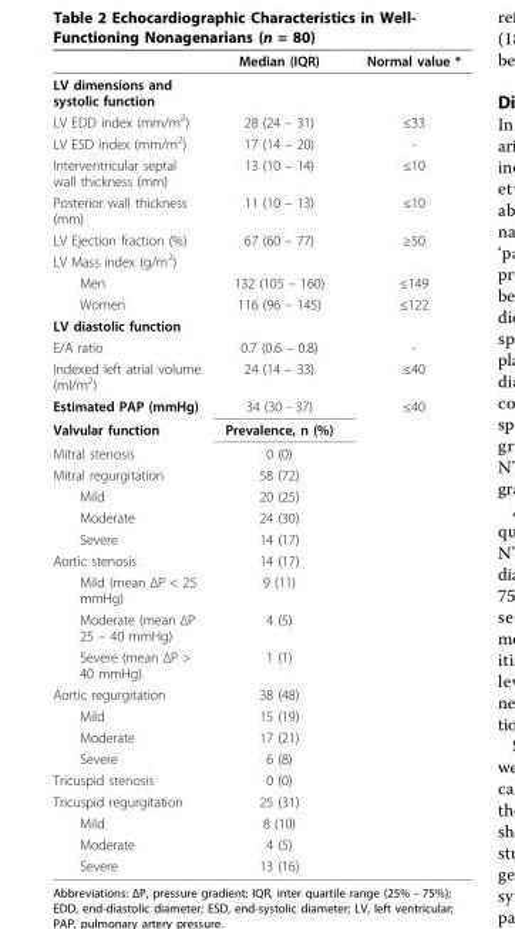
<table><thead><tr><td></td><td>Median (IQR)</td><td>Normal value *</td></tr></thead><tbody><tr><td colspan="3">LV dimensions and systolic function</td></tr><tr><td>LV EDD index (mm/m<sup>2</sup>)</td><td>28 (24 – 31)</td><td>≤33</td></tr><tr><td>LV ESD index (mm/m<sup>2</sup>)</td><td>17 (14 – 20)</td><td>-</td></tr><tr><td>Interventricular septal wall thickness (mm)</td><td>13 (10 – 14)</td><td>≤10</td></tr><tr><td>Posterior wall thickness (mm)</td><td>11 (10 – 13)</td><td>≤10</td></tr><tr><td>LV Ejection fraction (%)</td><td>67 (60 – 77)</td><td>≥50</td></tr><tr><td colspan="3">LV Mass index (g/m<sup>2</sup>)</td></tr><tr><td>Men</td><td>132 (105 – 160)</td><td>≤149</td></tr><tr><td>Women</td><td>116 (96 – 145)</td><td>≤122</td></tr><tr><td colspan="3">LV diastolic function</td></tr><tr><td>E/A ratio</td><td>0.7 (0.6 – 0.8)</td><td>-</td></tr><tr><td>Indexed left atrial volume (ml/m<sup>2</sup>)</td><td>24 (14 – 33)</td><td>≤40</td></tr><tr><td>Estimated PAP (mmHg)</td><td>34 (30 - 37)</td><td>≤40</td></tr><tr><td>Valvular function</td><td>Prevalence, n (%)</td><td></td></tr><tr><td>Mitral stenosis</td><td>0 (0)</td><td></td></tr><tr><td>Mitral regurgitation</td><td>58 (72)</td><td></td></tr><tr><td>Mild</td><td>20 (25)</td><td></td></tr><tr><td>Moderate</td><td>24 (30)</td><td></td></tr><tr><td>Severe</td><td>14 (17)</td><td></td></tr><tr><td>Aortic stenosis</td><td>14 (17)</td><td></td></tr><tr><td>Mild (mean ΔP &lt; 25 mmHg)</td><td>9 (11)</td><td></td></tr><tr><td>Moderate (mean ΔP 25 – 40 mmHg)</td><td>4 (5)</td><td></td></tr><tr><td>Severe (mean ΔP &gt; 40 mmHg)</td><td>1 (1)</td><td></td></tr><tr><td>Aortic regurgitation</td><td>38 (48)</td><td></td></tr><tr><td>Mild</td><td>15 (19)</td><td></td></tr><tr><td>Moderate</td><td>17 (21)</td><td></td></tr><tr><td>Severe</td><td>6 (8)</td><td></td></tr><tr><td>Tricuspid stenosis</td><td>0 (0)</td><td></td></tr><tr><td>Tricuspid regurgitation</td><td>25 (31)</td><td></td></tr><tr><td>Mild</td><td>8 (10)</td><td></td></tr><tr><td>Moderate</td><td>4 (5)</td><td></td></tr><tr><td>Severe</td><td>13 (16)</td><td></td></tr></tbody></table>